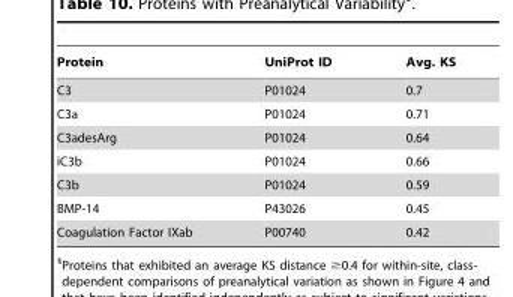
<table><thead><tr><td>Protein</td><td>UniProt ID</td><td>Avg. KS</td></tr></thead><tbody><tr><td>C3</td><td>P01024</td><td>0.7</td></tr><tr><td>C3a</td><td>P01024</td><td>0.71</td></tr><tr><td>C3adesArg</td><td>P01024</td><td>0.64</td></tr><tr><td>iC3b</td><td>P01024</td><td>0.66</td></tr><tr><td>C3b</td><td>P01024</td><td>0.59</td></tr><tr><td>BMP-14</td><td>P43026</td><td>0.45</td></tr><tr><td>Coagulation Factor IXab</td><td>P00740</td><td>0.42</td></tr></tbody></table>